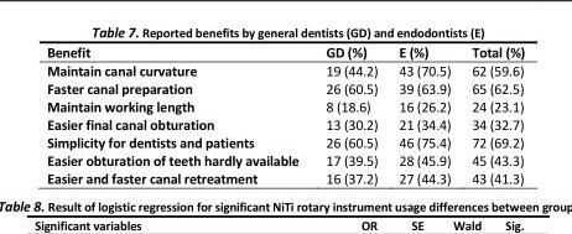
<table><thead><tr><td>Benefit</td><td>GD (%)</td><td>E (%)</td><td>Total (%)</td></tr></thead><tbody><tr><td>Maintain canal curvature</td><td>19 (44.2)</td><td>43 (70.5)</td><td>62 (59.6)</td></tr><tr><td>Faster canal preparation</td><td>26 (60.5)</td><td>39 (63.9)</td><td>65 (62.5)</td></tr><tr><td>Maintain working length</td><td>8 (18.6)</td><td>16 (26.2)</td><td>24 (23.1)</td></tr><tr><td>Easier final canal obturation</td><td>13 (30.2)</td><td>21 (34.4)</td><td>34 (32.7)</td></tr><tr><td>Simplicity for dentists and patients</td><td>26 (60.5)</td><td>46 (75.4)</td><td>72 (69.2)</td></tr><tr><td>Easier obturation of teeth hardly available</td><td>17 (39.5)</td><td>28 (45.9)</td><td>45 (43.3)</td></tr><tr><td>Easier and faster canal retreatment</td><td>16 (37.2)</td><td>27 (44.3)</td><td>43 (41.3)</td></tr></tbody></table>